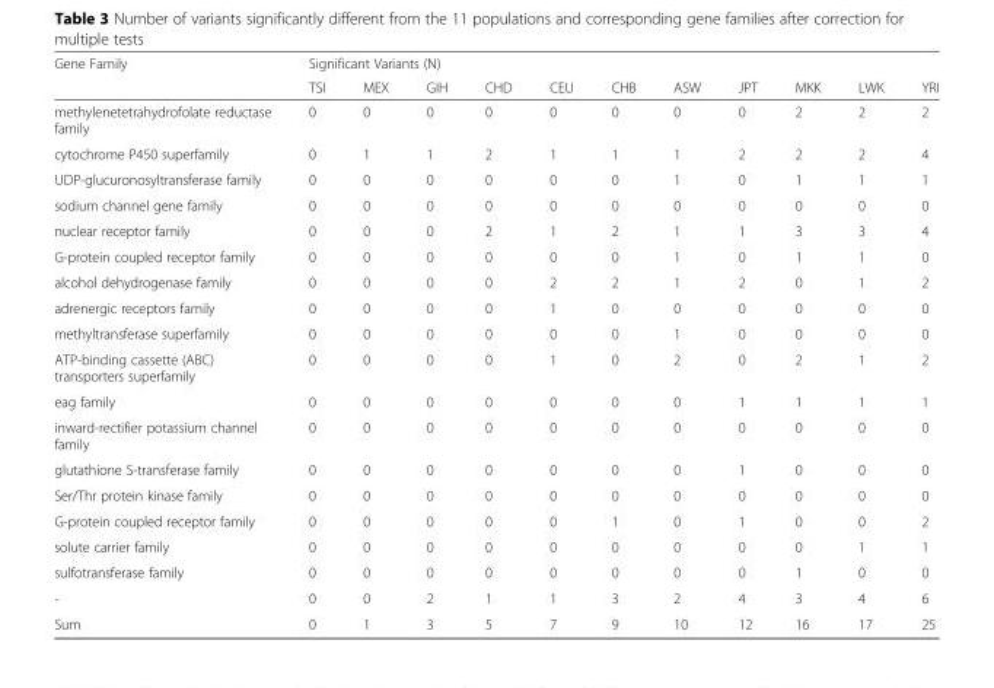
<table><thead><tr><td rowspan="2">Gene Family</td><td colspan="11">Significant Variants (N)</td></tr><tr><td>TSI</td><td>MEX</td><td>GIH</td><td>CHD</td><td>CEU</td><td>CHB</td><td>ASW</td><td>JPT</td><td>MKK</td><td>LWK</td><td>YRI</td></tr></thead><tbody><tr><td>methylenetetrahydrofolate reductase family</td><td>0</td><td>0</td><td>0</td><td>0</td><td>0</td><td>0</td><td>0</td><td>0</td><td>2</td><td>2</td><td>2</td></tr><tr><td>cytochrome P450 superfamily</td><td>0</td><td>1</td><td>1</td><td>2</td><td>1</td><td>1</td><td>1</td><td>2</td><td>2</td><td>2</td><td>4</td></tr><tr><td>UDP-glucuronosyltransferase family</td><td>0</td><td>0</td><td>0</td><td>0</td><td>0</td><td>0</td><td>1</td><td>0</td><td>1</td><td>1</td><td>1</td></tr><tr><td>sodium channel gene family</td><td>0</td><td>0</td><td>0</td><td>0</td><td>0</td><td>0</td><td>0</td><td>0</td><td>0</td><td>0</td><td>0</td></tr><tr><td>nuclear receptor family</td><td>0</td><td>0</td><td>0</td><td>2</td><td>1</td><td>2</td><td>1</td><td>1</td><td>3</td><td>3</td><td>4</td></tr><tr><td>G-protein coupled receptor family</td><td>0</td><td>0</td><td>0</td><td>0</td><td>0</td><td>0</td><td>1</td><td>0</td><td>1</td><td>1</td><td>0</td></tr><tr><td>alcohol dehydrogenase family</td><td>0</td><td>0</td><td>0</td><td>0</td><td>2</td><td>2</td><td>1</td><td>2</td><td>0</td><td>1</td><td>2</td></tr><tr><td>adrenergic receptors family</td><td>0</td><td>0</td><td>0</td><td>0</td><td>1</td><td>0</td><td>0</td><td>0</td><td>0</td><td>0</td><td>0</td></tr><tr><td>methyltransferase superfamily</td><td>0</td><td>0</td><td>0</td><td>0</td><td>0</td><td>0</td><td>1</td><td>0</td><td>0</td><td>0</td><td>0</td></tr><tr><td>ATP-binding cassette (ABC) transporters superfamily</td><td>0</td><td>0</td><td>0</td><td>0</td><td>1</td><td>0</td><td>2</td><td>0</td><td>2</td><td>1</td><td>2</td></tr><tr><td>eag family</td><td>0</td><td>0</td><td>0</td><td>0</td><td>0</td><td>0</td><td>0</td><td>1</td><td>1</td><td>1</td><td>1</td></tr><tr><td>inward-rectifier potassium channel family</td><td>0</td><td>0</td><td>0</td><td>0</td><td>0</td><td>0</td><td>0</td><td>0</td><td>0</td><td>0</td><td>0</td></tr><tr><td>glutathione S-transferase family</td><td>0</td><td>0</td><td>0</td><td>0</td><td>0</td><td>0</td><td>0</td><td>1</td><td>0</td><td>0</td><td>0</td></tr><tr><td>Ser/Thr protein kinase family</td><td>0</td><td>0</td><td>0</td><td>0</td><td>0</td><td>0</td><td>0</td><td>0</td><td>0</td><td>0</td><td>0</td></tr><tr><td>G-protein coupled receptor family</td><td>0</td><td>0</td><td>0</td><td>0</td><td>0</td><td>1</td><td>0</td><td>1</td><td>0</td><td>0</td><td>2</td></tr><tr><td>solute carrier family</td><td>0</td><td>0</td><td>0</td><td>0</td><td>0</td><td>0</td><td>0</td><td>0</td><td>0</td><td>1</td><td>1</td></tr><tr><td>sulfotransferase family</td><td>0</td><td>0</td><td>0</td><td>0</td><td>0</td><td>0</td><td>0</td><td>0</td><td>1</td><td>0</td><td>0</td></tr><tr><td>-</td><td>0</td><td>0</td><td>2</td><td>1</td><td>1</td><td>3</td><td>2</td><td>4</td><td>3</td><td>4</td><td>6</td></tr><tr><td>Sum</td><td>0</td><td>1</td><td>3</td><td>5</td><td>7</td><td>9</td><td>10</td><td>12</td><td>16</td><td>17</td><td>25</td></tr></tbody></table>